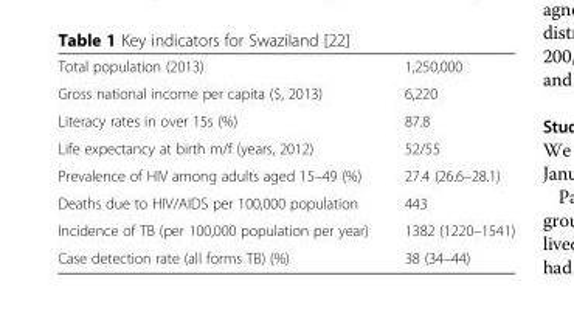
<table><tbody><tr><td>Total population (2013)</td><td>1,250,000</td></tr><tr><td>Gross national income per capita ($, 2013)</td><td>6,220</td></tr><tr><td>Literacy rates in over 15s (%)</td><td>87.8</td></tr><tr><td>Life expectancy at birth m/f (years, 2012)</td><td>52/55</td></tr><tr><td>Prevalence of HIV among adults aged 15–49 (%)</td><td>27.4 (26.6–28.1)</td></tr><tr><td>Deaths due to HIV/AIDS per 100,000 population</td><td>443</td></tr><tr><td>Incidence of TB (per 100,000 population per year)</td><td>1382 (1220–1541)</td></tr><tr><td>Case detection rate (all forms TB) (%)</td><td>38 (34–44)</td></tr></tbody></table>